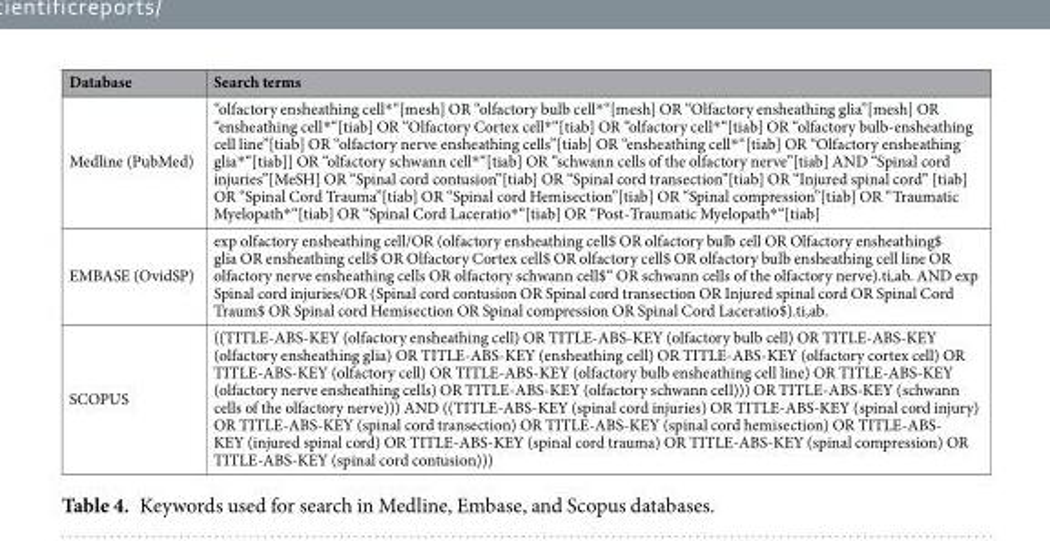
<table><thead><tr><td>Database</td><td>Search terms</td></tr></thead><tbody><tr><td>Medline (PubMed)</td><td>“olfactory ensheathing cell*“[mesh] OR “olfactory bulb cell*“[mesh] OR “Olfactory ensheathing glia”[mesh] OR “ensheathing cell*“[tiab] OR “Olfactory Cortex cell*“[tiab] OR “olfactory cell*“[tiab] OR “olfactory bulb‐ensheathing cell line”[tiab] OR “olfactory nerve ensheathing cells”[tiab] OR “ensheathing cell*“[tiab] OR “Olfactory ensheathing glia*“[tiab]] OR “olfactory schwann cell*“[tiab] OR “schwann cells of the olfactory nerve”[tiab] AND “Spinal cord injuries”[MeSH] OR “Spinal cord contusion”[tiab] OR “Spinal cord transection”[tiab] OR “Injured spinal cord” [tiab] OR “Spinal Cord Trauma”[tiab] OR “Spinal cord Hemisection”[tiab] OR “Spinal compression”[tiab] OR “Traumatic Myelopath*“[tiab] OR “Spinal Cord Laceratio*“[tiab] OR “Post-Traumatic Myelopath*“[tiab]</td></tr><tr><td>EMBASE (OvidSP)</td><td>exp olfactory ensheathing cell/OR (olfactory ensheathing cell$ OR olfactory bulb cell OR Olfactory ensheathing$ glia OR ensheathing cell$ OR Olfactory Cortex cell$ OR olfactory cell$ OR olfactory bulb ensheathing cell line OR olfactory nerve ensheathing cells OR olfactory schwann cell$“ OR schwann cells of the olfactory nerve).ti,ab. AND exp Spinal cord injuries/OR (Spinal cord contusion OR Spinal cord transection OR Injured spinal cord OR Spinal Cord Traum$ OR Spinal cord Hemisection OR Spinal compression OR Spinal Cord Laceratio$).ti,ab.</td></tr><tr><td>SCOPUS</td><td>((TITLE-ABS-KEY (olfactory ensheathing cell) OR TITLE-ABS-KEY (olfactory bulb cell) OR TITLE-ABS-KEY (olfactory ensheathing glia) OR TITLE-ABS-KEY (ensheathing cell) OR TITLE-ABS-KEY (olfactory cortex cell) OR TITLE-ABS-KEY (olfactory cell) OR TITLE-ABS-KEY (olfactory bulb ensheathing cell line) OR TITLE-ABS-KEY (olfactory nerve ensheathing cells) OR TITLE-ABS-KEY (olfactory schwann cell))) OR TITLE-ABS-KEY (schwann cells of the olfactory nerve))) AND ((TITLE-ABS-KEY (spinal cord injuries) OR TITLE-ABS-KEY (spinal cord injury) OR TITLE-ABS-KEY (spinal cord transection) OR TITLE-ABS-KEY (spinal cord hemisection) OR TITLE-ABS- KEY (injured spinal cord) OR TITLE-ABS-KEY (spinal cord trauma) OR TITLE-ABS-KEY (spinal compression) OR TITLE-ABS-KEY (spinal cord contusion)))</td></tr></tbody></table>